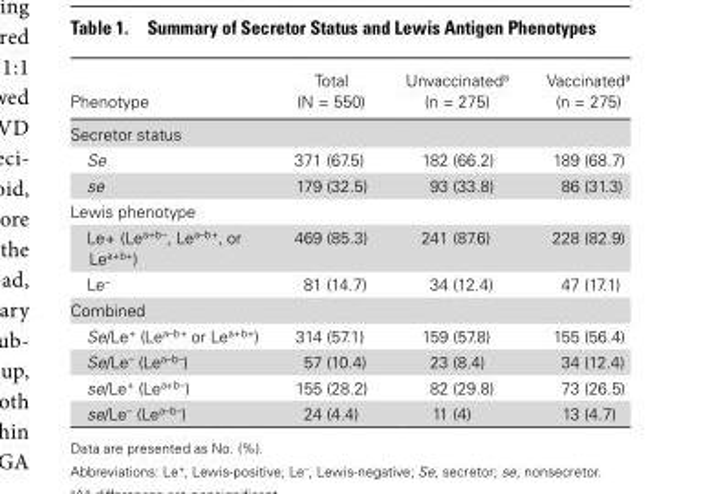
<table><thead><tr><td>Phenotype</td><td>Total (N = 550)</td><td>Unvaccinated<sup>a</sup> (n = 275)</td><td>Vaccinated<sup>a</sup> (n = 275)</td></tr></thead><tbody><tr><td colspan="4">Secretor status</td></tr><tr><td>Se</td><td>371 (67.5)</td><td>182 (66.2)</td><td>189 (68.7)</td></tr><tr><td>se</td><td>179 (32.5)</td><td>93 (33.8)</td><td>86 (31.3)</td></tr><tr><td colspan="4">Lewis phenotype</td></tr><tr><td>Le+ (Le<sup>a+b–</sup>, Le<sup>a–b+</sup>, or Le<sup>a+b+</sup>)</td><td>469 (85.3)</td><td>241 (87.6)</td><td>228 (82.9)</td></tr><tr><td>Le<sup>–</sup></td><td>81 (14.7)</td><td>34 (12.4)</td><td>47 (17.1)</td></tr><tr><td colspan="4">Combined</td></tr><tr><td>Se/Le<sup>+</sup> (Le<sup>a–b+</sup> or Le<sup>a+b+</sup>)</td><td>314 (57.1)</td><td>159 (57.8)</td><td>155 (56.4)</td></tr><tr><td>Se/Le<sup>–</sup> (Le<sup>a–b–</sup>)</td><td>57 (10.4)</td><td>23 (8.4)</td><td>34 (12.4)</td></tr><tr><td>se/Le<sup>+</sup> (Le<sup>a+b–</sup>)</td><td>155 (28.2)</td><td>82 (29.8)</td><td>73 (26.5)</td></tr><tr><td>se/Le<sup>–</sup> (Le<sup>a–b–</sup>)</td><td>24 (4.4)</td><td>11 (4)</td><td>13 (4.7)</td></tr></tbody></table>